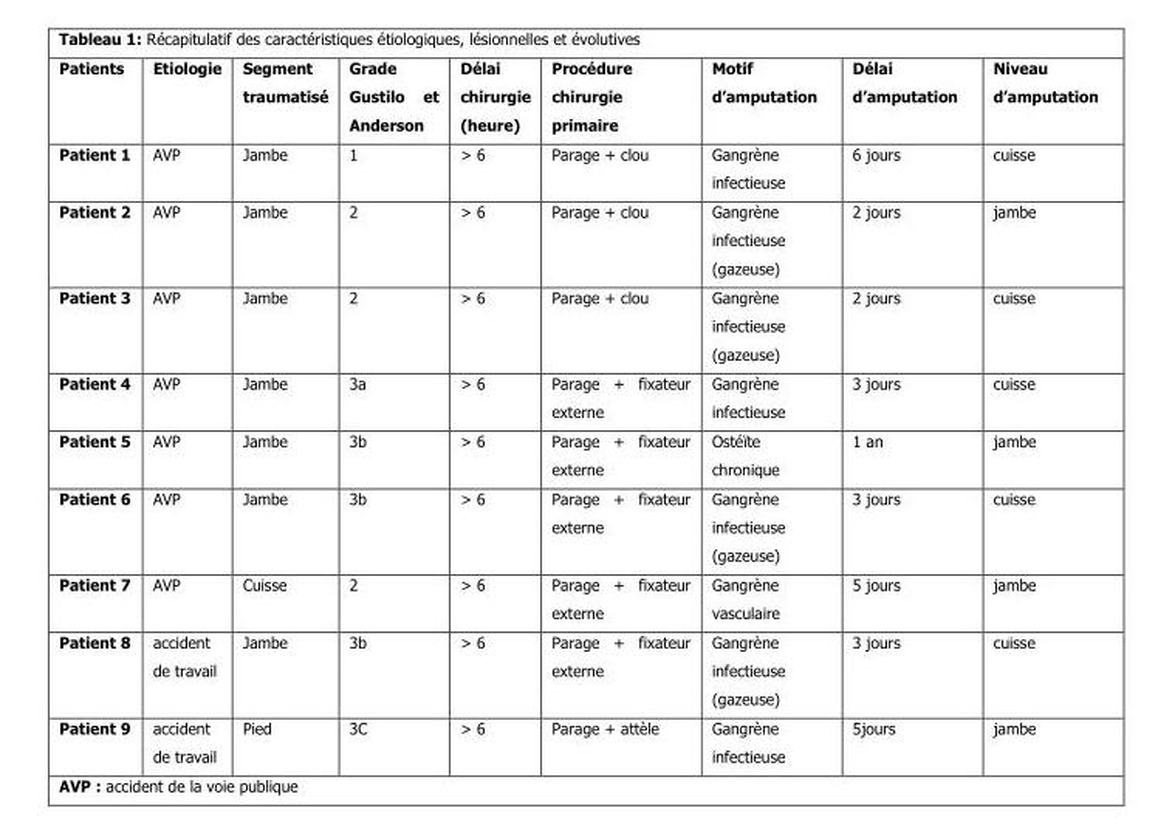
<table><thead><tr><td>Patients</td><td>Etiologie</td><td>Segment traumatisé</td><td>Grade Gustilo et Anderson</td><td>Délai chirurgie (heure)</td><td>Procédure chirurgie primaire</td><td>Motif d’amputation</td><td>Délai d’amputation</td><td>Niveau d’amputation</td></tr></thead><tbody><tr><td>Patient 1</td><td>AVP</td><td>Jambe</td><td>1</td><td>˃ 6</td><td>Parage + clou</td><td>Gangrène infectieuse</td><td>6 jours</td><td>cuisse</td></tr><tr><td>Patient 2</td><td>AVP</td><td>Jambe</td><td>2</td><td>˃ 6</td><td>Parage + clou</td><td>Gangrène infectieuse (gazeuse)</td><td>2 jours</td><td>jambe</td></tr><tr><td>Patient 3</td><td>AVP</td><td>Jambe</td><td>2</td><td>˃ 6</td><td>Parage + clou</td><td>Gangrène infectieuse (gazeuse)</td><td>2 jours</td><td>cuisse</td></tr><tr><td>Patient 4</td><td>AVP</td><td>Jambe</td><td>3a</td><td>˃ 6</td><td>Parage + fixateur externe</td><td>Gangrène infectieuse</td><td>3 jours</td><td>cuisse</td></tr><tr><td>Patient 5</td><td>AVP</td><td>Jambe</td><td>3b</td><td>˃ 6</td><td>Parage + fixateur externe</td><td>Ostéïte chronique</td><td>1 an</td><td>jambe</td></tr><tr><td>Patient 6</td><td>AVP</td><td>Jambe</td><td>3b</td><td>˃ 6</td><td>Parage + fixateur externe</td><td>Gangrène infectieuse (gazeuse)</td><td>3 jours</td><td>cuisse</td></tr><tr><td>Patient 7</td><td>AVP</td><td>Cuisse</td><td>2</td><td>˃ 6</td><td>Parage + fixateur externe</td><td>Gangrène vasculaire</td><td>5 jours</td><td>jambe</td></tr><tr><td>Patient 8</td><td>accident de travail</td><td>Jambe</td><td>3b</td><td>˃ 6</td><td>Parage + fixateur externe</td><td>Gangrène infectieuse (gazeuse)</td><td>3 jours</td><td>cuisse</td></tr><tr><td>Patient 9</td><td>accident de travail</td><td>Pied</td><td>3C</td><td>˃ 6</td><td>Parage + attèle</td><td>Gangrène infectieuse</td><td>5jours</td><td>jambe</td></tr></tbody></table>